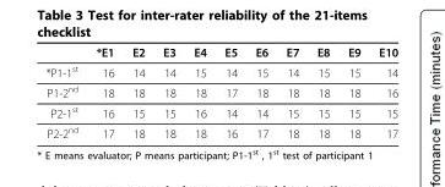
<table><thead><tr><td></td><td>*E1</td><td>E2</td><td>E3</td><td>E4</td><td>E5</td><td>E6</td><td>E7</td><td>E8</td><td>E9</td><td>E10</td></tr></thead><tbody><tr><td>*P1-1<sup>st</sup></td><td>16</td><td>14</td><td>14</td><td>15</td><td>14</td><td>15</td><td>14</td><td>15</td><td>15</td><td>14</td></tr><tr><td>P1-2<sup>nd</sup></td><td>18</td><td>18</td><td>18</td><td>18</td><td>17</td><td>18</td><td>18</td><td>18</td><td>18</td><td>16</td></tr><tr><td>P2-1<sup>st</sup></td><td>16</td><td>15</td><td>15</td><td>16</td><td>14</td><td>14</td><td>15</td><td>15</td><td>15</td><td>15</td></tr><tr><td>P2-2<sup>nd</sup></td><td>17</td><td>18</td><td>18</td><td>18</td><td>16</td><td>17</td><td>18</td><td>18</td><td>18</td><td>17</td></tr></tbody></table>